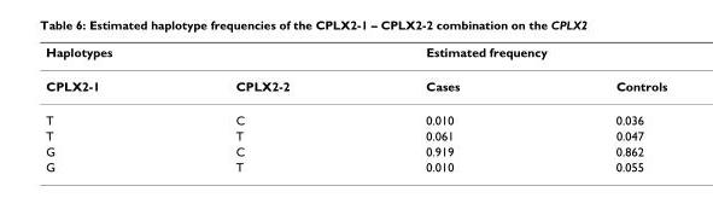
<table><thead><tr><td rowspan="2">Haplotypes CPLX2-1</td><td rowspan="2">CPLX2-2</td><td colspan="2">Estimated frequency</td></tr><tr><td>Cases</td><td>Controls</td></tr></thead><tbody><tr><td>T</td><td>C</td><td>0.010</td><td>0.036</td></tr><tr><td>T</td><td>T</td><td>0.061</td><td>0.047</td></tr><tr><td>G</td><td>C</td><td>0.919</td><td>0.862</td></tr><tr><td>G</td><td>T</td><td>0.010</td><td>0.055</td></tr></tbody></table>